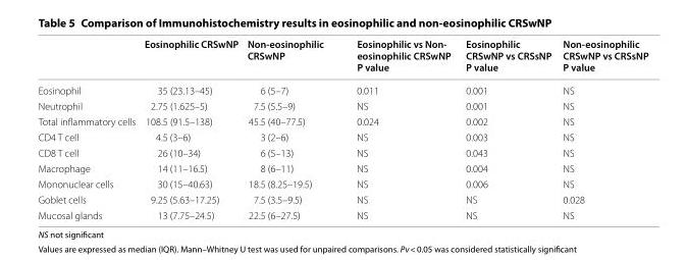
<table><thead><tr><td></td><td>Eosinophilic CRSwNP</td><td>Non‑eosinophilic CRSwNP</td><td>Eosinophilic vs Non‑ eosinophilic CRSwNP P value</td><td>Eosinophilic CRSwNP vs CRSsNP P value</td><td>Non‑eosinophilic CRSwNP vs CRSsNP P value</td></tr></thead><tbody><tr><td>Eosinophil</td><td>35 (23.13–45)</td><td>6 (5–7)</td><td>0.011</td><td>0.001</td><td>NS</td></tr><tr><td>Neutrophil</td><td>2.75 (1.625–5)</td><td>7.5 (5.5–9)</td><td>NS</td><td>0.001</td><td>NS</td></tr><tr><td>Total inflammatory cells</td><td>108.5 (91.5–138)</td><td>45.5 (40–77.5)</td><td>0.024</td><td>0.002</td><td>NS</td></tr><tr><td>CD4 T cell</td><td>4.5 (3–6)</td><td>3 (2–6)</td><td>NS</td><td>0.003</td><td>NS</td></tr><tr><td>CD8 T cell</td><td>26 (10–34)</td><td>6 (5–13)</td><td>NS</td><td>0.043</td><td>NS</td></tr><tr><td>Macrophage</td><td>14 (11–16.5)</td><td>8 (6–11)</td><td>NS</td><td>0.004</td><td>NS</td></tr><tr><td>Mononuclear cells</td><td>30 (15–40.63)</td><td>18.5 (8.25–19.5)</td><td>NS</td><td>0.006</td><td>NS</td></tr><tr><td>Goblet cells</td><td>9.25 (5.63–17.25)</td><td>7.5 (3.5–9.5)</td><td>NS</td><td>NS</td><td>0.028</td></tr><tr><td>Mucosal glands</td><td>13 (7.75–24.5)</td><td>22.5 (6–27.5)</td><td>NS</td><td>NS</td><td>NS</td></tr></tbody></table>